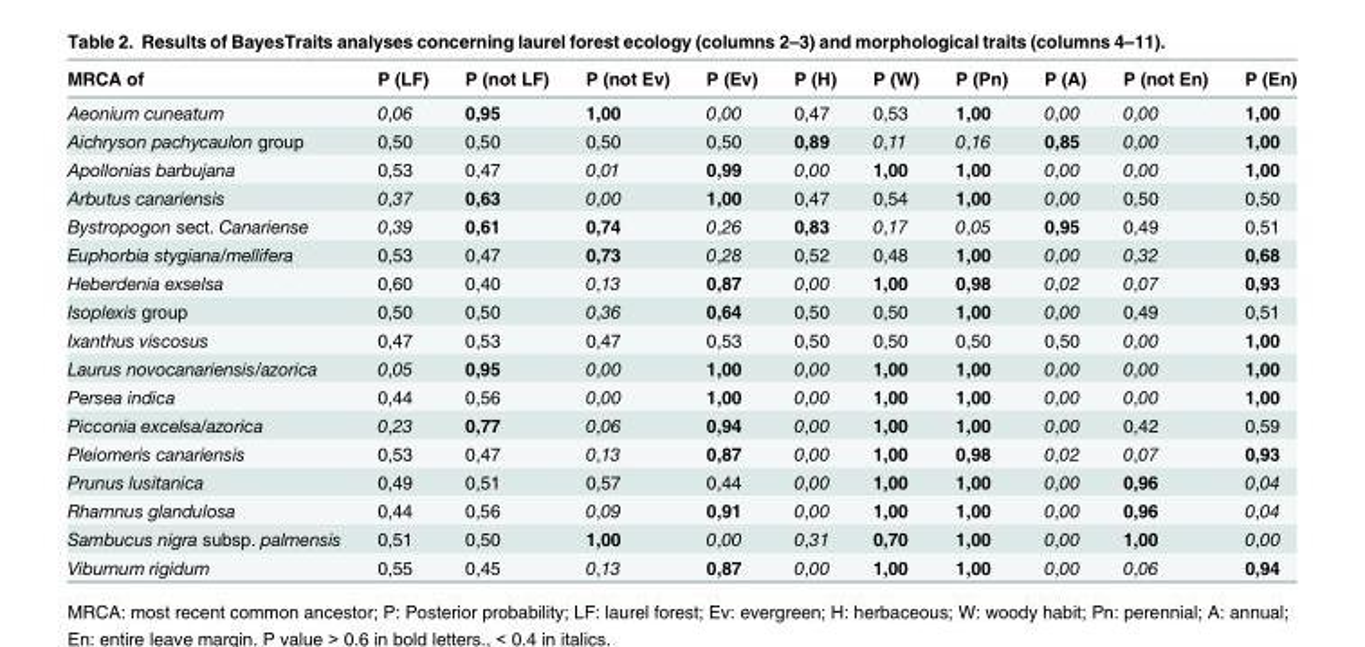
<table><thead><tr><td>MRCA of</td><td>P (LF)</td><td>P (not LF)</td><td>P (not Ev)</td><td>P (Ev)</td><td>P (H)</td><td>P (W)</td><td>P (Pn)</td><td>P (A)</td><td>P (not En)</td><td>P (En)</td></tr></thead><tbody><tr><td>Aeonium cuneatum</td><td>0,06</td><td>0,95</td><td>1,00</td><td>0,00</td><td>0,47</td><td>0,53</td><td>1,00</td><td>0,00</td><td>0,00</td><td>1,00</td></tr><tr><td>Aichryson pachycaulon group</td><td>0,50</td><td>0,50</td><td>0,50</td><td>0,50</td><td>0,89</td><td>0,11</td><td>0,16</td><td>0,85</td><td>0,00</td><td>1,00</td></tr><tr><td>Apollonias barbujana</td><td>0,53</td><td>0,47</td><td>0,01</td><td>0,99</td><td>0,00</td><td>1,00</td><td>1,00</td><td>0,00</td><td>0,00</td><td>1,00</td></tr><tr><td>Arbutus canariensis</td><td>0,37</td><td>0,63</td><td>0,00</td><td>1,00</td><td>0,47</td><td>0,54</td><td>1,00</td><td>0,00</td><td>0,50</td><td>0,50</td></tr><tr><td>Bystropogon sect. Canariense</td><td>0,39</td><td>0,61</td><td>0,74</td><td>0,26</td><td>0,83</td><td>0,17</td><td>0,05</td><td>0,95</td><td>0,49</td><td>0,51</td></tr><tr><td>Euphorbia stygiana/mellifera</td><td>0,53</td><td>0,47</td><td>0,73</td><td>0,28</td><td>0,52</td><td>0,48</td><td>1,00</td><td>0,00</td><td>0,32</td><td>0,68</td></tr><tr><td>Heberdenia exselsa</td><td>0,60</td><td>0,40</td><td>0,13</td><td>0,87</td><td>0,00</td><td>1,00</td><td>0,98</td><td>0,02</td><td>0,07</td><td>0,93</td></tr><tr><td>Isoplexis group</td><td>0,50</td><td>0,50</td><td>0,36</td><td>0,64</td><td>0,50</td><td>0,50</td><td>1,00</td><td>0,00</td><td>0,49</td><td>0,51</td></tr><tr><td>Ixanthus viscosus</td><td>0,47</td><td>0,53</td><td>0,47</td><td>0,53</td><td>0,50</td><td>0,50</td><td>0,50</td><td>0,50</td><td>0,00</td><td>1,00</td></tr><tr><td>Laurus novocanariensis/azorica</td><td>0,05</td><td>0,95</td><td>0,00</td><td>1,00</td><td>0,00</td><td>1,00</td><td>1,00</td><td>0,00</td><td>0,00</td><td>1,00</td></tr><tr><td>Persea indica</td><td>0,44</td><td>0,56</td><td>0,00</td><td>1,00</td><td>0,00</td><td>1,00</td><td>1,00</td><td>0,00</td><td>0,00</td><td>1,00</td></tr><tr><td>Picconia excelsa/azorica</td><td>0,23</td><td>0,77</td><td>0,06</td><td>0,94</td><td>0,00</td><td>1,00</td><td>1,00</td><td>0,00</td><td>0,42</td><td>0,59</td></tr><tr><td>Pleiomeris canariensis</td><td>0,53</td><td>0,47</td><td>0,13</td><td>0,87</td><td>0,00</td><td>1,00</td><td>0,98</td><td>0,02</td><td>0,07</td><td>0,93</td></tr><tr><td>Prunus lusitanica</td><td>0,49</td><td>0,51</td><td>0,57</td><td>0,44</td><td>0,00</td><td>1,00</td><td>1,00</td><td>0,00</td><td>0,96</td><td>0,04</td></tr><tr><td>Rhamnus glandulosa</td><td>0,44</td><td>0,56</td><td>0,09</td><td>0,91</td><td>0,00</td><td>1,00</td><td>1,00</td><td>0,00</td><td>0,96</td><td>0,04</td></tr><tr><td>Sambucus nigra subsp. palmensis</td><td>0,51</td><td>0,50</td><td>1,00</td><td>0,00</td><td>0,31</td><td>0,70</td><td>1,00</td><td>0,00</td><td>1,00</td><td>0,00</td></tr><tr><td>Viburnum rigidum</td><td>0,55</td><td>0,45</td><td>0,13</td><td>0,87</td><td>0,00</td><td>1,00</td><td>1,00</td><td>0,00</td><td>0,06</td><td>0,94</td></tr></tbody></table>